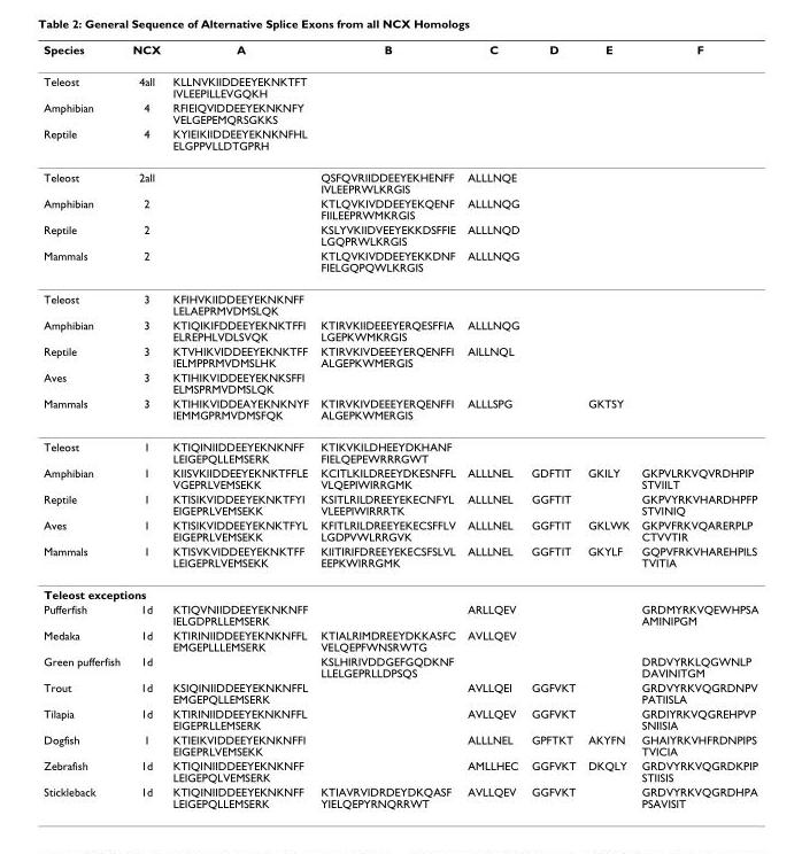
<table><thead><tr><td>Species</td><td>NCX</td><td>A</td><td>B</td><td>C</td><td>D</td><td>E</td><td>F</td></tr></thead><tbody><tr><td>Teleost</td><td>4all</td><td>KLLNVKIIDDEEYEKNKTFT IVLEEPILLEVGQKH</td><td></td><td></td><td></td><td></td><td></td></tr><tr><td>Amphibian</td><td>4</td><td>RFIEIQVIDDEEYEKNKNFY VELGEPEMQRSGKKS</td><td></td><td></td><td></td><td></td><td></td></tr><tr><td>Reptile</td><td>4</td><td>KYIEIKIIDDEEYEKNKNFHL ELGPPVLLDTGPRH</td><td></td><td></td><td></td><td></td><td></td></tr><tr><td>Teleost</td><td>2all</td><td></td><td>QSFQVRIIDDEEYEKHENFF IVLEEPRWLKRGIS</td><td>ALLLNQE</td><td></td><td></td><td></td></tr><tr><td>Amphibian</td><td>2</td><td></td><td>KTLQVKIVDDEEYEKQENF FIILEEPRWMKRGIS</td><td>ALLLNQG</td><td></td><td></td><td></td></tr><tr><td>Reptile</td><td>2</td><td></td><td>KSLYVKIIDVEEYEKKDSFFIE LGQPRWLKRGIS</td><td>ALLLNQD</td><td></td><td></td><td></td></tr><tr><td>Mammals</td><td>2</td><td></td><td>KTLQVKIVDDEEYEKKDNF FIELGQPQWLKRGIS</td><td>ALLLNQG</td><td></td><td></td><td></td></tr><tr><td>Teleost</td><td>3</td><td>KFIHVKIIDDEEYEKNKNFF LELAEPRMVDMSLQK</td><td></td><td></td><td></td><td></td><td></td></tr><tr><td>Amphibian</td><td>3</td><td>KTIQIKIFDDEEYEKNKTFFI ELREPHLVDLSVQK</td><td>KTIRVKIIDEEEYERQESFFIA LGEPKWMKRGIS</td><td>ALLLNQG</td><td></td><td></td><td></td></tr><tr><td>Reptile</td><td>3</td><td>KTVHIKVIDDEEYEKNKTFF IELMPPRMVDMSLHK</td><td>KTIRVKIVDEEEYERQENFFI ALGEPKWMERGIS</td><td>AILLNQL</td><td></td><td></td><td></td></tr><tr><td>Aves</td><td>3</td><td>KTIHIKVIDDEEYEKNKSFFI ELMSPRMVDMSLQK</td><td></td><td></td><td></td><td></td><td></td></tr><tr><td>Mammals</td><td>3</td><td>KTIHIKVIDDEAYEKNKNYF IEMMGPRMVDMSFQK</td><td>KTIRVKIVDEEEYERQENFFI ALGEPKWMERGIS</td><td>ALLLSPG</td><td></td><td>GKTSY</td><td></td></tr><tr><td>Teleost</td><td>1</td><td>KTIQINIIDDEEYEKNKNFF LEIGEPQLLEMSERK</td><td>KTIKVKILDHEEYDKHANF FIELQEPEWRRRGWT</td><td></td><td></td><td></td><td></td></tr><tr><td>Amphibian</td><td>1</td><td>KIISVKIIDDEEYEKNKTFFLE VGEPRLVEMSEKK</td><td>KCITLKILDREEYDKESNFFL VLQEPIWIRRGMK</td><td>ALLLNEL</td><td>GDFTIT</td><td>GKILY</td><td>GKPVLRKVQVRDHPIP STVIILT</td></tr><tr><td>Reptile</td><td>1</td><td>KTISIKVIDDEEYEKNKTFYI EIGEPRLVEMSEKK</td><td>KSITLRILDREEYEKECNFYL VLEEPIWIRRRTK</td><td>ALLLNEL</td><td>GGFTIT</td><td></td><td>GKPVYRKVHARDHPFP STVINIQ</td></tr><tr><td>Aves</td><td>1</td><td>KTISIKVIDDEEYEKNKTFYL EIGEPRLVEMSEKK</td><td>KFITLRILDREEYEKECSFFLV LGDPVWLRRGVK</td><td>ALLLNEL</td><td>GGFTIT</td><td>GKLWK</td><td>GKPVFRKVQARERPLP CTVVTIR</td></tr><tr><td>Mammals</td><td>1</td><td>KTISVKVIDDEEYEKNKTFF LEIGEPRLVEMSEKK</td><td>KIITIRIFDREEYEKECSFSLVL EEPKWIRRGMK</td><td>ALLLNEL</td><td>GGFTIT</td><td>GKYLF</td><td>GQPVFRKVHAREHPILS TVITIA</td></tr><tr><td colspan="8">Teleost exceptions</td></tr><tr><td>Pufferfish</td><td>1d</td><td>KTIQVNIIDDEEYEKNKNFF IELGDPRLLEMSERK</td><td></td><td>ARLLQEV</td><td></td><td></td><td>GRDMYRKVQEWHPSA AMINIPGM</td></tr><tr><td>Medaka</td><td>1d</td><td>KTIRINIIDDEEYEKNKNFFL EMGEPLLLEMSERK</td><td>KTIALRIMDREEYDKKASFC VELQEPFWNSRWTG</td><td>AVLLQEV</td><td></td><td></td><td></td></tr><tr><td>Green pufferfish</td><td>1d</td><td></td><td>KSLHIRIVDDGEFGQDKNF LLELGEPRLLDPSQS</td><td></td><td></td><td></td><td>DRDVYRKLQGWNLP DAVINITGM</td></tr><tr><td>Trout</td><td>1d</td><td>KSIQINIIDDEEYEKNKNFFL EMGEPQLLEMSERK</td><td></td><td>AVLLQEI</td><td>GGFVKT</td><td></td><td>GRDVYRKVQGRDNPV PATIISLA</td></tr><tr><td>Tilapia</td><td>1d</td><td>KTIRINIIDDEEYEKNKNFFL EIGEPRLLEMSERK</td><td></td><td>AVLLQEV</td><td>GGFVKT</td><td></td><td>GRDIYRKVQGREHPVP SNIISIA</td></tr><tr><td>Dogfish</td><td>1</td><td>KTIEIKVIDDEEYEKNKNFFI EIGEPRLVEMSEKK</td><td></td><td>ALLLNEL</td><td>GPFTKT</td><td>AKYFN</td><td>GHAIYRKVHFRDNPIPS TVICIA</td></tr><tr><td>Zebrafish</td><td>1d</td><td>KTIQINIIDDEEYEKNKNFF LEIGEPQLVEMSERK</td><td></td><td>AMLLHEC</td><td>GGFVKT</td><td>DKQLY</td><td>GRDVYRKVQGRDKPIP STIISIS</td></tr><tr><td>Stickleback</td><td>1d</td><td>KTIQINIIDDEEYEKNKNFF LEIGEPQLLEMSERK</td><td>KTIAVRVIDRDEYDKQASF YIELQEPYRNQRRWT</td><td>AVLLQEV</td><td>GGFVKT</td><td></td><td>GRDVYRKVQGRDHPA PSAVISIT</td></tr></tbody></table>